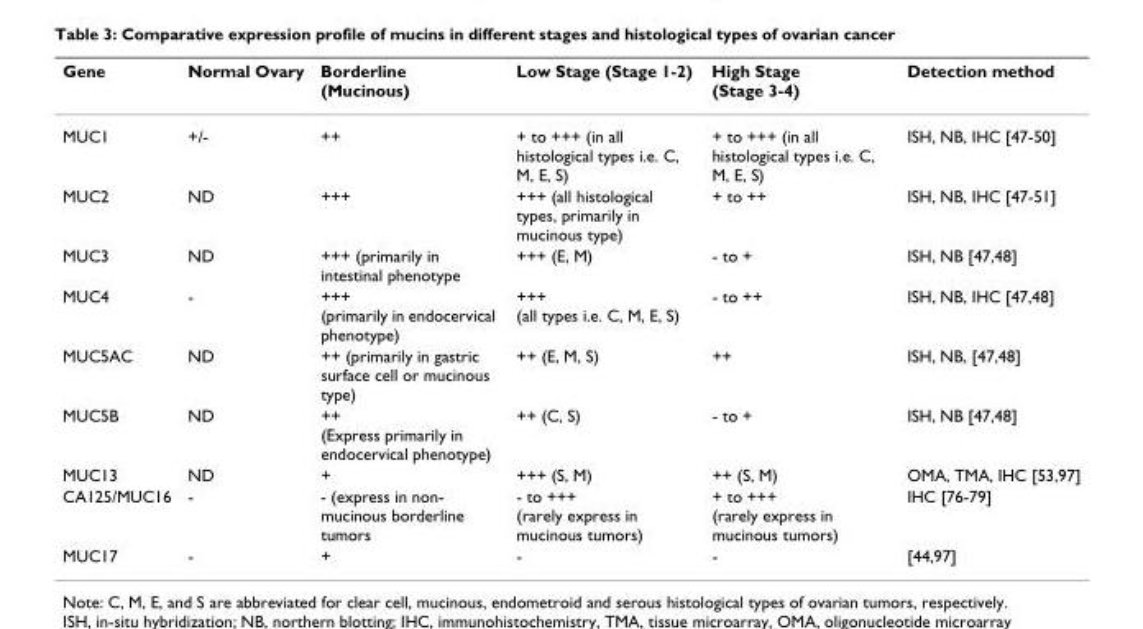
<table><thead><tr><td>Gene</td><td>Normal Ovary</td><td>Borderline (Mucinous)</td><td>Low Stage (Stage 1-2)</td><td>High Stage (Stage 3-4)</td><td>Detection method</td></tr></thead><tbody><tr><td>MUC1</td><td>+/-</td><td>++</td><td>+ to +++ (in all histological types i.e. C, M, E, S)</td><td>+ to +++ (in all histological types i.e. C, M, E, S)</td><td>ISH, NB, IHC [47-50]</td></tr><tr><td>MUC2</td><td>ND</td><td>+++</td><td>+++ (all histological types, primarily in mucinous type)</td><td>+ to ++</td><td>ISH, NB, IHC [47-51]</td></tr><tr><td>MUC3</td><td>ND</td><td>+++ (primarily in intestinal phenotype</td><td>+++ (E, M)</td><td>- to +</td><td>ISH, NB [47,48]</td></tr><tr><td>MUC4</td><td>-</td><td>+++ (primarily in endocervical phenotype)</td><td>+++ (all types i.e. C, M, E, S)</td><td>- to ++</td><td>ISH, NB, IHC [47,48]</td></tr><tr><td>MUC5AC</td><td>ND</td><td>++ (primarily in gastric surface cell or mucinous type)</td><td>++ (E, M, S)</td><td>++</td><td>ISH, NB, [47,48]</td></tr><tr><td>MUC5B</td><td>ND</td><td>++ (Express primarily in endocervical phenotype)</td><td>++ (C, S)</td><td>- to +</td><td>ISH, NB [47,48]</td></tr><tr><td>MUC13</td><td>ND</td><td>+</td><td>+++ (S, M)</td><td>++ (S, M)</td><td>OMA, TMA, IHC [53,97]</td></tr><tr><td>CA125/MUC16</td><td>-</td><td>- (express in non- mucinous borderline tumors</td><td>- to +++ (rarely express in mucinous tumors)</td><td>+ to +++ (rarely express in mucinous tumors)</td><td>IHC [76-79]</td></tr><tr><td>MUC17</td><td>-</td><td>+</td><td>-</td><td>-</td><td>[44,97]</td></tr></tbody></table>